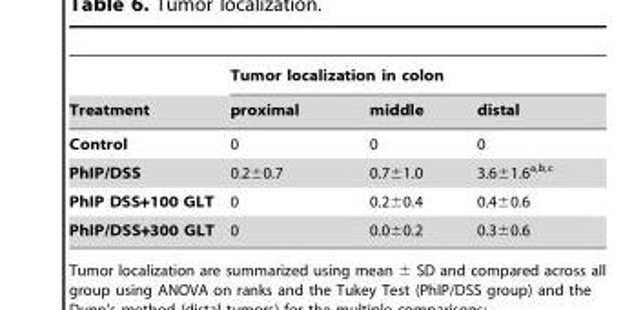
<table><thead><tr><td rowspan="2">Treatment</td><td colspan="3">Tumor localization in colon</td></tr><tr><td>proximal</td><td>middle</td><td>distal</td></tr></thead><tbody><tr><td>Control</td><td>0</td><td>0</td><td>0</td></tr><tr><td>PhIP/DSS</td><td>0.2±0.7</td><td>0.7±1.0</td><td>3.6±1.6<sup>a,</sup>b<sup>,</sup>c</td></tr><tr><td>PhIP DSS+100 GLT</td><td>0</td><td>0.2±0.4</td><td>0.4±0.6</td></tr><tr><td>PhIP/DSS+300 GLT</td><td>0</td><td>0.0±0.2</td><td>0.3±0.6</td></tr></tbody></table>